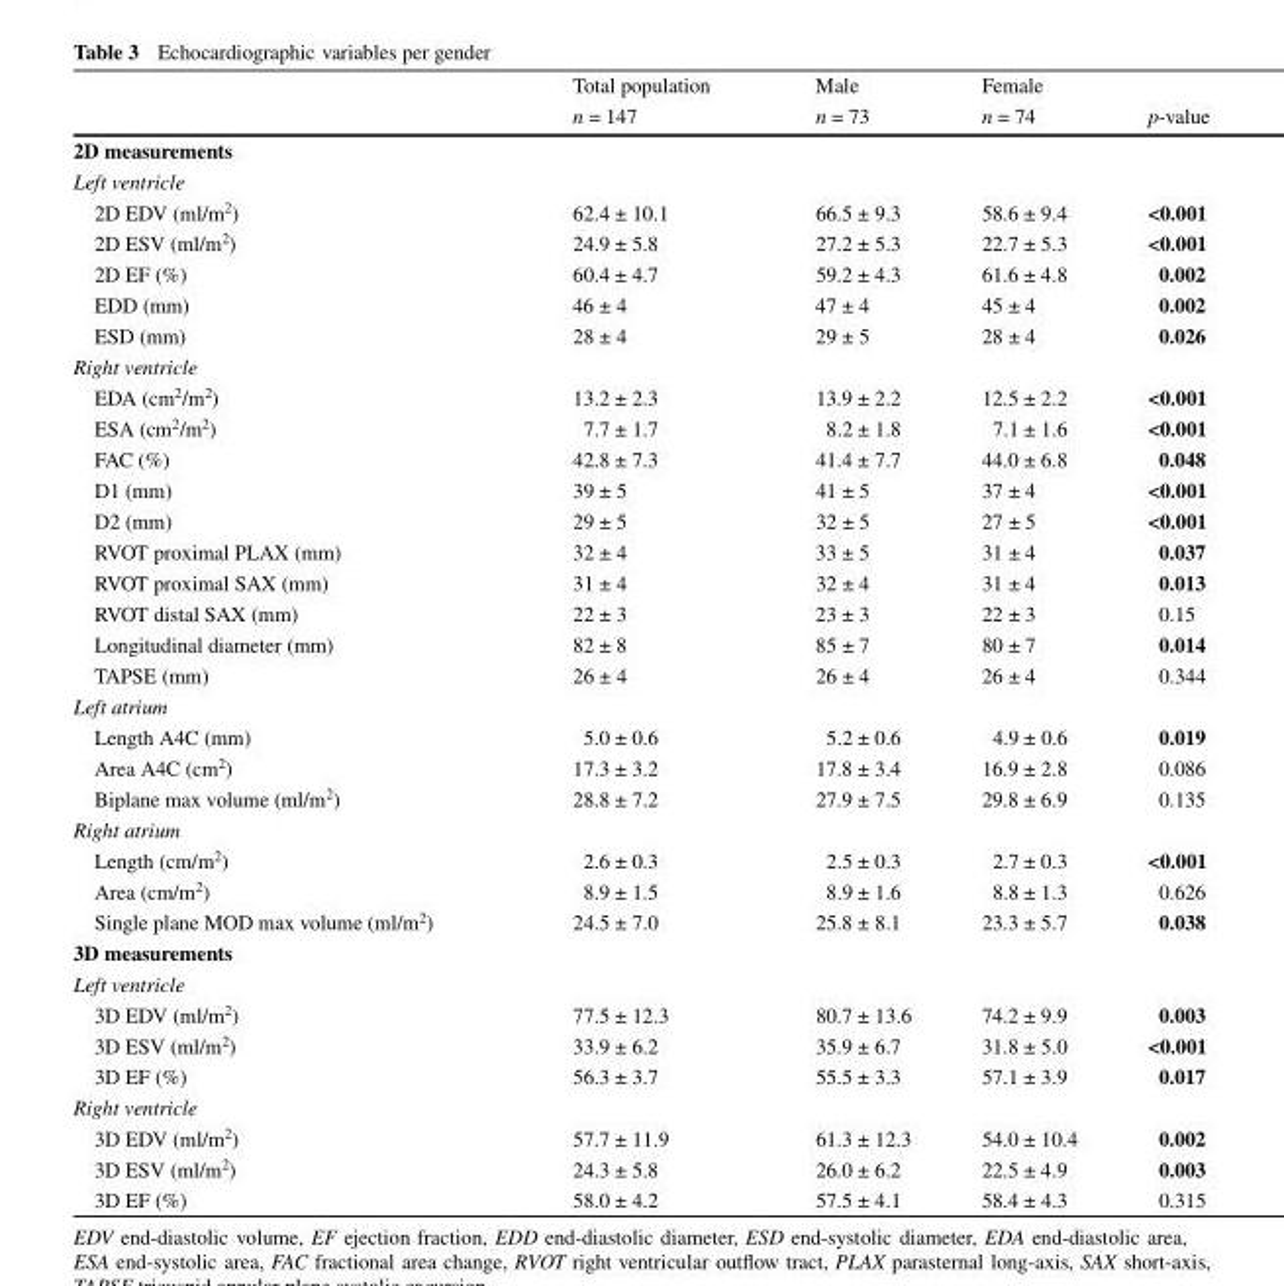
<table><thead><tr><td rowspan="2"></td><td rowspan="2">Total population n = 147</td><td rowspan="2">Male n = 73</td><td rowspan="2">Female n = 74</td><td rowspan="2">p-value</td></tr><tr></tr></thead><tbody><tr><td colspan="5">2D measurements</td></tr><tr><td colspan="5">Left ventricle</td></tr><tr><td>2D EDV (ml/m<sup>2</sup>)</td><td>62.4 ± 10.1</td><td>66.5 ± 9.3</td><td>58.6 ± 9.4</td><td>&lt;0.001</td></tr><tr><td>2D ESV (ml/m<sup>2</sup>)</td><td>24.9 ± 5.8</td><td>27.2 ± 5.3</td><td>22.7 ± 5.3</td><td>&lt;0.001</td></tr><tr><td>2D EF (%)</td><td>60.4 ± 4.7</td><td>59.2 ± 4.3</td><td>61.6 ± 4.8</td><td>0.002</td></tr><tr><td>EDD (mm)</td><td>46 ± 4</td><td>47 ± 4</td><td>45 ± 4</td><td>0.002</td></tr><tr><td>ESD (mm)</td><td>28 ± 4</td><td>29 ± 5</td><td>28 ± 4</td><td>0.026</td></tr><tr><td colspan="5">Right ventricle</td></tr><tr><td>EDA (cm<sup>2</sup>/m<sup>2</sup>)</td><td>13.2 ± 2.3</td><td>13.9 ± 2.2</td><td>12.5 ± 2.2</td><td>&lt;0.001</td></tr><tr><td>ESA (cm<sup>2</sup>/m<sup>2</sup>)</td><td>7.7 ± 1.7</td><td>8.2 ± 1.8</td><td>7.1 ± 1.6</td><td>&lt;0.001</td></tr><tr><td>FAC (%)</td><td>42.8 ± 7.3</td><td>41.4 ± 7.7</td><td>44.0 ± 6.8</td><td>0.048</td></tr><tr><td>D1 (mm)</td><td>39 ± 5</td><td>41 ± 5</td><td>37 ± 4</td><td>&lt;0.001</td></tr><tr><td>D2 (mm)</td><td>29 ± 5</td><td>32 ± 5</td><td>27 ± 5</td><td>&lt;0.001</td></tr><tr><td>RVOT proximal PLAX (mm)</td><td>32 ± 4</td><td>33 ± 5</td><td>31 ± 4</td><td>0.037</td></tr><tr><td>RVOT proximal SAX (mm)</td><td>31 ± 4</td><td>32 ± 4</td><td>31 ± 4</td><td>0.013</td></tr><tr><td>RVOT distal SAX (mm)</td><td>22 ± 3</td><td>23 ± 3</td><td>22 ± 3</td><td>0.15</td></tr><tr><td>Longitudinal diameter (mm)</td><td>82 ± 8</td><td>85 ± 7</td><td>80 ± 7</td><td>0.014</td></tr><tr><td>TAPSE (mm)</td><td>26 ± 4</td><td>26 ± 4</td><td>26 ± 4</td><td>0.344</td></tr><tr><td colspan="5">Left atrium</td></tr><tr><td>Length A4C (mm)</td><td>5.0 ± 0.6</td><td>5.2 ± 0.6</td><td>4.9 ± 0.6</td><td>0.019</td></tr><tr><td>Area A4C (cm<sup>2</sup>)</td><td>17.3 ± 3.2</td><td>17.8 ± 3.4</td><td>16.9 ± 2.8</td><td>0.086</td></tr><tr><td>Biplane max volume (ml/m<sup>2</sup>)</td><td>28.8 ± 7.2</td><td>27.9 ± 7.5</td><td>29.8 ± 6.9</td><td>0.135</td></tr><tr><td colspan="5">Right atrium</td></tr><tr><td>Length (cm/m<sup>2</sup>)</td><td>2.6 ± 0.3</td><td>2.5 ± 0.3</td><td>2.7 ± 0.3</td><td>&lt;0.001</td></tr><tr><td>Area (cm/m<sup>2</sup>)</td><td>8.9 ± 1.5</td><td>8.9 ± 1.6</td><td>8.8 ± 1.3</td><td>0.626</td></tr><tr><td>Single plane MOD max volume (ml/m<sup>2</sup>)</td><td>24.5 ± 7.0</td><td>25.8 ± 8.1</td><td>23.3 ± 5.7</td><td>0.038</td></tr><tr><td colspan="5">3D measurements</td></tr><tr><td colspan="5">Left ventricle</td></tr><tr><td>3D EDV (ml/m<sup>2</sup>)</td><td>77.5 ± 12.3</td><td>80.7 ± 13.6</td><td>74.2 ± 9.9</td><td>0.003</td></tr><tr><td>3D ESV (ml/m<sup>2</sup>)</td><td>33.9 ± 6.2</td><td>35.9 ± 6.7</td><td>31.8 ± 5.0</td><td>&lt;0.001</td></tr><tr><td>3D EF (%)</td><td>56.3 ± 3.7</td><td>55.5 ± 3.3</td><td>57.1 ± 3.9</td><td>0.017</td></tr><tr><td colspan="5">Right ventricle</td></tr><tr><td>3D EDV (ml/m<sup>2</sup>)</td><td>57.7 ± 11.9</td><td>61.3 ± 12.3</td><td>54.0 ± 10.4</td><td>0.002</td></tr><tr><td>3D ESV (ml/m<sup>2</sup>)</td><td>24.3 ± 5.8</td><td>26.0 ± 6.2</td><td>22.5 ± 4.9</td><td>0.003</td></tr><tr><td>3D EF (%)</td><td>58.0 ± 4.2</td><td>57.5 ± 4.1</td><td>58.4 ± 4.3</td><td>0.315</td></tr></tbody></table>